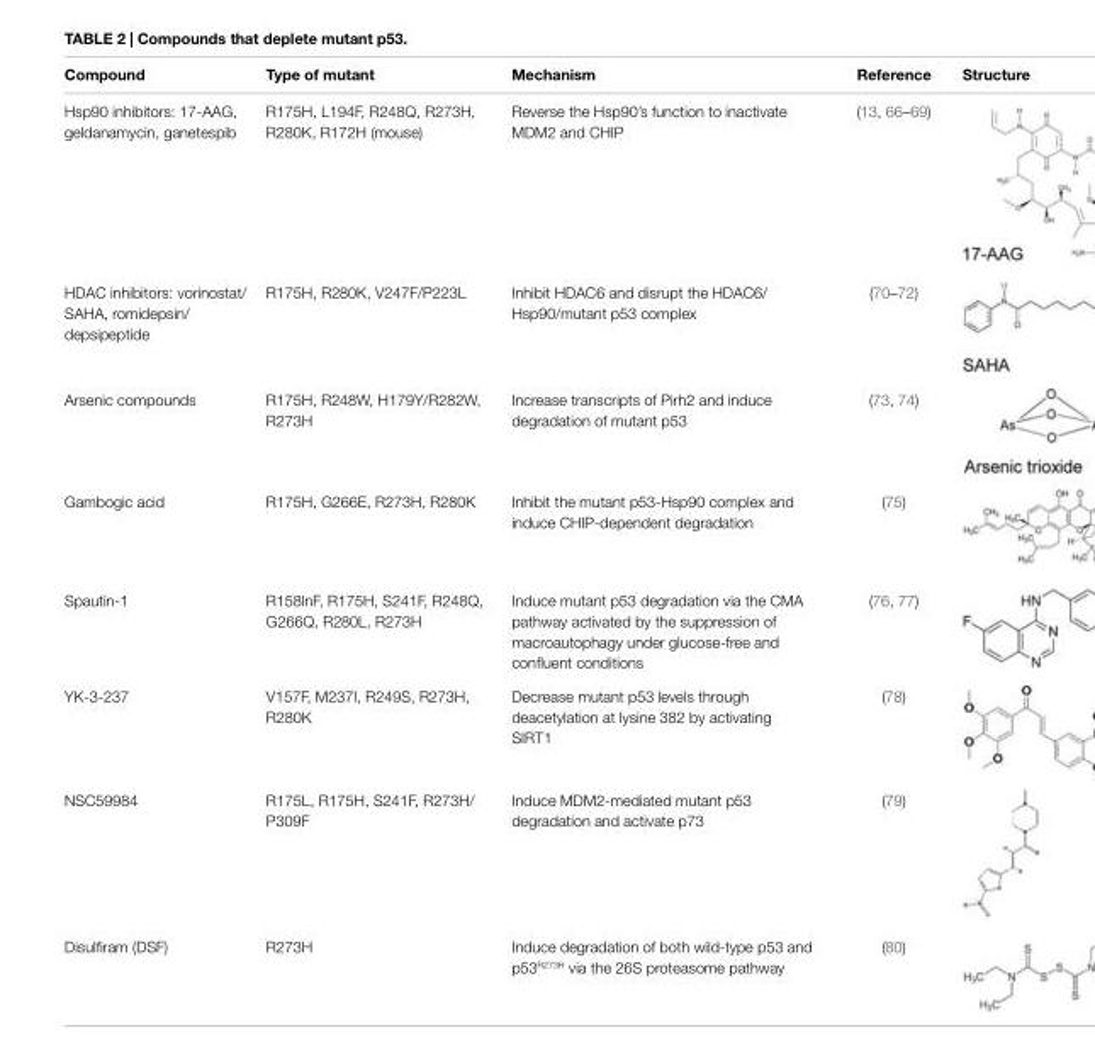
<table><thead><tr><td>Compound</td><td>Type of mutant</td><td>Mechanism</td><td>Reference</td><td>Structure</td></tr></thead><tbody><tr><td>Hsp90 inhibitors: 17-AAG, geldanamycin, ganetespib</td><td>R175H, L194F, R248Q, R273H, R280K, R172H (mouse)</td><td>Reverse the Hsp90’s function to inactivate MDM2 and CHIP</td><td>(13, 66–69)</td><td></td></tr><tr><td>HDAC inhibitors: vorinostat/ SAHA, romidepsin/ depsipeptide</td><td>R175H, R280K, V247F/P223L</td><td>Inhibit HDAC6 and disrupt the HDAC6/ Hsp90/mutant p53 complex</td><td>(70–72)</td><td></td></tr><tr><td>Arsenic compounds</td><td>R175H, R248W, H179Y/R282W, R273H</td><td>Increase transcripts of Pirh2 and induce degradation of mutant p53</td><td>(73, 74)</td><td></td></tr><tr><td>Gambogic acid</td><td>R175H, G266E, R273H, R280K</td><td>Inhibit the mutant p53-Hsp90 complex and induce CHIP-dependent degradation</td><td>(75)</td><td></td></tr><tr><td>Spautin-1</td><td>R158lnF, R175H, S241F, R248Q, G266Q, R280L, R273H</td><td>Induce mutant p53 degradation via the CMA pathway activated by the suppression of macroautophagy under glucose-free and confluent conditions</td><td>(76, 77)</td><td></td></tr><tr><td>YK-3-237</td><td>V157F, M237I, R249S, R273H, R280K</td><td>Decrease mutant p53 levels through deacetylation at lysine 382 by activating SIRT1</td><td>(78)</td><td></td></tr><tr><td>NSC59984</td><td>R175L, R175H, S241F, R273H/ P309F</td><td>Induce MDM2-mediated mutant p53 degradation and activate p73</td><td>(79)</td><td></td></tr><tr><td>Disulfiram (DSF)</td><td>R273H</td><td>Induce degradation of both wild-type p53 and p53<sup>R273H</sup> via the 26S proteasome pathway</td><td>(80)</td><td></td></tr></tbody></table>